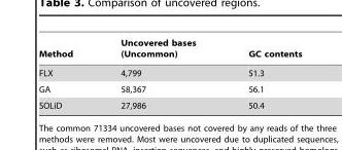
<table><thead><tr><td>Method</td><td>Uncovered bases (Uncommon)</td><td>GC contents</td></tr></thead><tbody><tr><td>FLX</td><td>4,799</td><td>51.3</td></tr><tr><td>GA</td><td>58,367</td><td>56.1</td></tr><tr><td>SOLiD</td><td>27,986</td><td>50.4</td></tr></tbody></table>